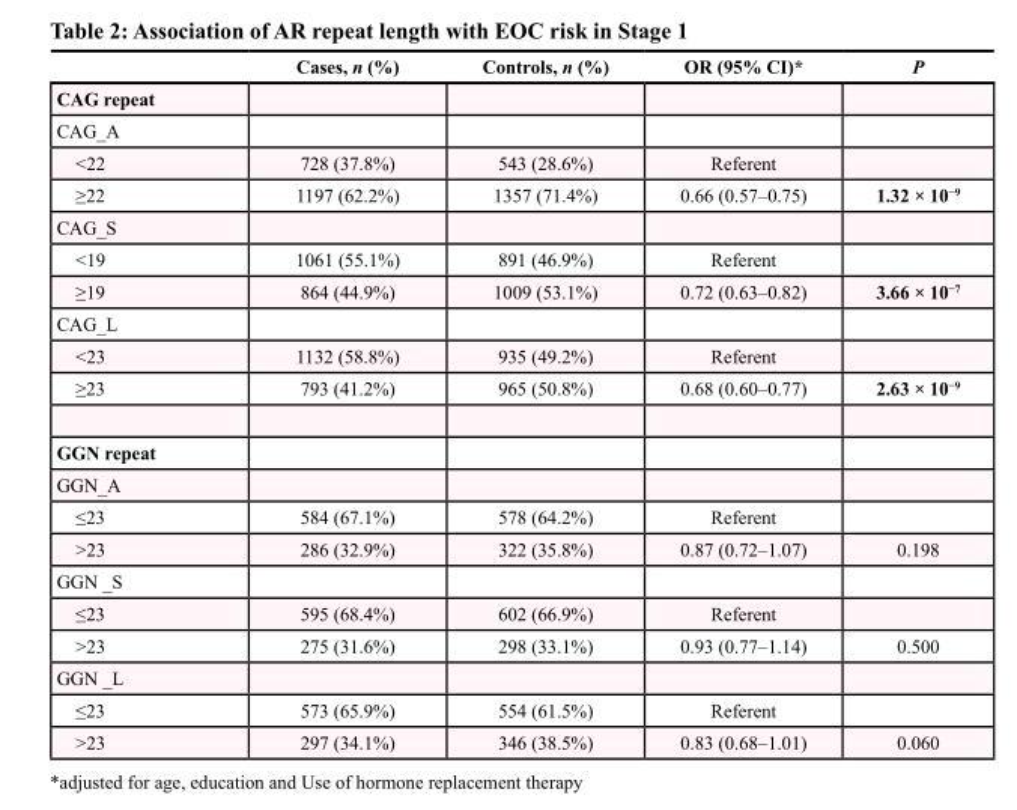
<table><thead><tr><td></td><td>Cases, n (%)</td><td>Controls, n (%)</td><td>OR (95% CI)*</td><td>P</td></tr></thead><tbody><tr><td colspan="5">CAG repeat</td></tr><tr><td colspan="5">CAG_A</td></tr><tr><td>&lt;22</td><td>728 (37.8%)</td><td>543 (28.6%)</td><td>Referent</td><td></td></tr><tr><td>≥22</td><td>1197 (62.2%)</td><td>1357 (71.4%)</td><td>0.66 (0.57–0.75)</td><td>1.32 × 10<sup>−9</sup></td></tr><tr><td colspan="5">CAG_S</td></tr><tr><td>&lt;19</td><td>1061 (55.1%)</td><td>891 (46.9%)</td><td>Referent</td><td></td></tr><tr><td>≥19</td><td>864 (44.9%)</td><td>1009 (53.1%)</td><td>0.72 (0.63–0.82)</td><td>3.66 × 10<sup>−7</sup></td></tr><tr><td colspan="5">CAG_L</td></tr><tr><td>&lt;23</td><td>1132 (58.8%)</td><td>935 (49.2%)</td><td>Referent</td><td></td></tr><tr><td>≥23</td><td>793 (41.2%)</td><td>965 (50.8%)</td><td>0.68 (0.60–0.77)</td><td>2.63 × 10<sup>−9</sup></td></tr><tr><td colspan="5">GGN repeat</td></tr><tr><td colspan="5">GGN_A</td></tr><tr><td>≤23</td><td>584 (67.1%)</td><td>578 (64.2%)</td><td>Referent</td><td></td></tr><tr><td>&gt;23</td><td>286 (32.9%)</td><td>322 (35.8%)</td><td>0.87 (0.72–1.07)</td><td>0.198</td></tr><tr><td colspan="5">GGN _S</td></tr><tr><td>≤23</td><td>595 (68.4%)</td><td>602 (66.9%)</td><td>Referent</td><td></td></tr><tr><td>&gt;23</td><td>275 (31.6%)</td><td>298 (33.1%)</td><td>0.93 (0.77–1.14)</td><td>0.500</td></tr><tr><td colspan="5">GGN _L</td></tr><tr><td>≤23</td><td>573 (65.9%)</td><td>554 (61.5%)</td><td>Referent</td><td></td></tr><tr><td>&gt;23</td><td>297 (34.1%)</td><td>346 (38.5%)</td><td>0.83 (0.68–1.01)</td><td>0.060</td></tr></tbody></table>